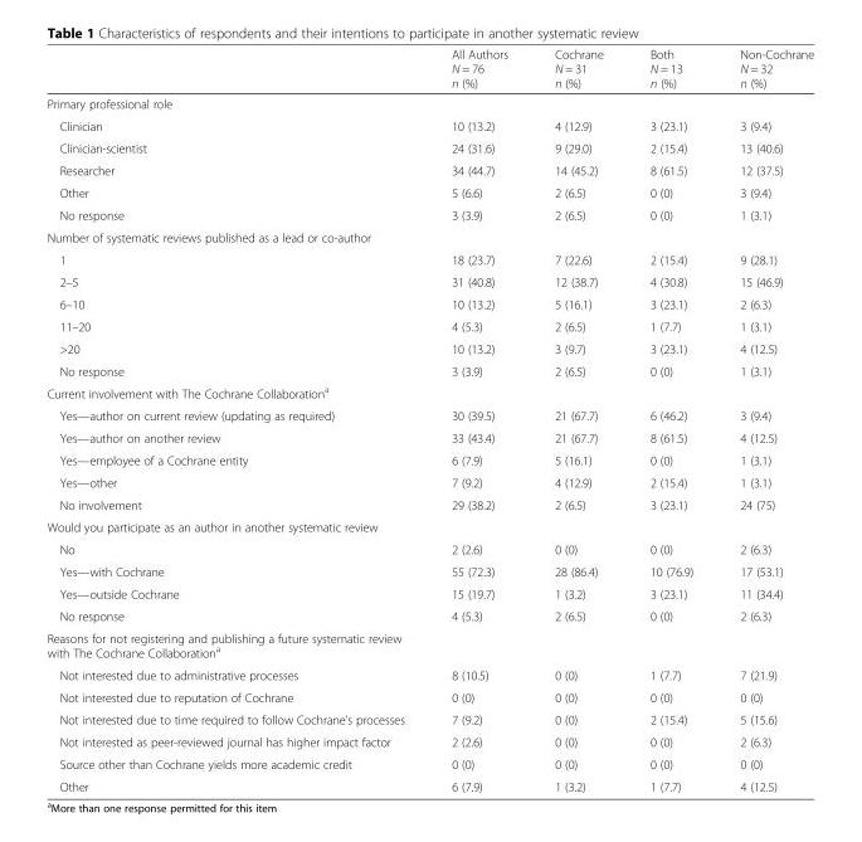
<table><thead><tr><td></td><td>All Authors N = 76 n (%)</td><td>Cochrane N = 31 n (%)</td><td>Both N = 13 n (%)</td><td>Non-Cochrane N = 32 n (%)</td></tr></thead><tbody><tr><td colspan="5">Primary professional role</td></tr><tr><td>Clinician</td><td>10 (13.2)</td><td>4 (12.9)</td><td>3 (23.1)</td><td>3 (9.4)</td></tr><tr><td>Clinician-scientist</td><td>24 (31.6)</td><td>9 (29.0)</td><td>2 (15.4)</td><td>13 (40.6)</td></tr><tr><td>Researcher</td><td>34 (44.7)</td><td>14 (45.2)</td><td>8 (61.5)</td><td>12 (37.5)</td></tr><tr><td>Other</td><td>5 (6.6)</td><td>2 (6.5)</td><td>0 (0)</td><td>3 (9.4)</td></tr><tr><td>No response</td><td>3 (3.9)</td><td>2 (6.5)</td><td>0 (0)</td><td>1 (3.1)</td></tr><tr><td colspan="5">Number of systematic reviews published as a lead or co-author</td></tr><tr><td>1</td><td>18 (23.7)</td><td>7 (22.6)</td><td>2 (15.4)</td><td>9 (28.1)</td></tr><tr><td>2–5</td><td>31 (40.8)</td><td>12 (38.7)</td><td>4 (30.8)</td><td>15 (46.9)</td></tr><tr><td>6–10</td><td>10 (13.2)</td><td>5 (16.1)</td><td>3 (23.1)</td><td>2 (6.3)</td></tr><tr><td>11–20</td><td>4 (5.3)</td><td>2 (6.5)</td><td>1 (7.7)</td><td>1 (3.1)</td></tr><tr><td>&gt;20</td><td>10 (13.2)</td><td>3 (9.7)</td><td>3 (23.1)</td><td>4 (12.5)</td></tr><tr><td>No response</td><td>3 (3.9)</td><td>2 (6.5)</td><td>0 (0)</td><td>1 (3.1)</td></tr><tr><td colspan="5">Current involvement with The Cochrane Collaboration<sup>a</sup></td></tr><tr><td>Yes—author on current review (updating as required)</td><td>30 (39.5)</td><td>21 (67.7)</td><td>6 (46.2)</td><td>3 (9.4)</td></tr><tr><td>Yes—author on another review</td><td>33 (43.4)</td><td>21 (67.7)</td><td>8 (61.5)</td><td>4 (12.5)</td></tr><tr><td>Yes—employee of a Cochrane entity</td><td>6 (7.9)</td><td>5 (16.1)</td><td>0 (0)</td><td>1 (3.1)</td></tr><tr><td>Yes—other</td><td>7 (9.2)</td><td>4 (12.9)</td><td>2 (15.4)</td><td>1 (3.1)</td></tr><tr><td>No involvement</td><td>29 (38.2)</td><td>2 (6.5)</td><td>3 (23.1)</td><td>24 (75)</td></tr><tr><td colspan="5">Would you participate as an author in another systematic review</td></tr><tr><td>No</td><td>2 (2.6)</td><td>0 (0)</td><td>0 (0)</td><td>2 (6.3)</td></tr><tr><td>Yes—with Cochrane</td><td>55 (72.3)</td><td>28 (86.4)</td><td>10 (76.9)</td><td>17 (53.1)</td></tr><tr><td>Yes—outside Cochrane</td><td>15 (19.7)</td><td>1 (3.2)</td><td>3 (23.1)</td><td>11 (34.4)</td></tr><tr><td>No response</td><td>4 (5.3)</td><td>2 (6.5)</td><td>0 (0)</td><td>2 (6.3)</td></tr><tr><td colspan="5">Reasons for not registering and publishing a future systematic review with The Cochrane Collaboration<sup>a</sup></td></tr><tr><td>Not interested due to administrative processes</td><td>8 (10.5)</td><td>0 (0)</td><td>1 (7.7)</td><td>7 (21.9)</td></tr><tr><td>Not interested due to reputation of Cochrane</td><td>0 (0)</td><td>0 (0)</td><td>0 (0)</td><td>0 (0)</td></tr><tr><td>Not interested due to time required to follow Cochrane’s processes</td><td>7 (9.2)</td><td>0 (0)</td><td>2 (15.4)</td><td>5 (15.6)</td></tr><tr><td>Not interested as peer-reviewed journal has higher impact factor</td><td>2 (2.6)</td><td>0 (0)</td><td>0 (0)</td><td>2 (6.3)</td></tr><tr><td>Source other than Cochrane yields more academic credit</td><td>0 (0)</td><td>0 (0)</td><td>0 (0)</td><td>0 (0)</td></tr><tr><td>Other</td><td>6 (7.9)</td><td>1 (3.2)</td><td>1 (7.7)</td><td>4 (12.5)</td></tr></tbody></table>